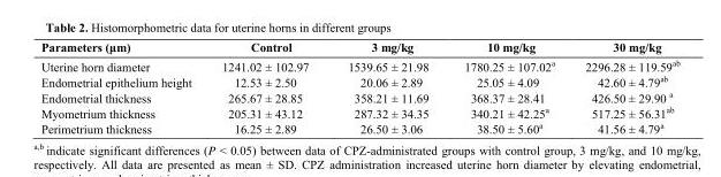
<table><thead><tr><td>Parameters (μm)</td><td>Control</td><td>3 mg/kg</td><td>10 mg/kg</td><td>30 mg/kg</td></tr></thead><tbody><tr><td>Uterine horn diameter</td><td>1241.02 ± 102.97</td><td>1539.65 ± 21.98</td><td>1780.25 ± 107.02<sup>a</sup></td><td>2296.28 ± 119.59<sup>ab</sup></td></tr><tr><td>Endometrial epithelium height</td><td>12.53 ± 2.50</td><td>20.06 ± 2.89</td><td>25.05 ± 4.09</td><td>42.60 ± 4.79<sup>ab</sup></td></tr><tr><td>Endometrial thickness</td><td>265.67 ± 28.85</td><td>358.21 ± 11.69</td><td>368.37 ± 28.41</td><td>426.50 ± 29.90 a</td></tr><tr><td>Myometrium thickness</td><td>205.31 ± 43.12</td><td>287.32 ± 34.35</td><td>340.21 ± 42.25<sup>a</sup></td><td>517.25 ± 56.31<sup>ab</sup></td></tr><tr><td>Perimetrium thickness</td><td>16.25 ± 2.89</td><td>26.50 ± 3.06</td><td>38.50 ± 5.60<sup>a</sup></td><td>41.56 ± 4.79<sup>a</sup></td></tr></tbody></table>